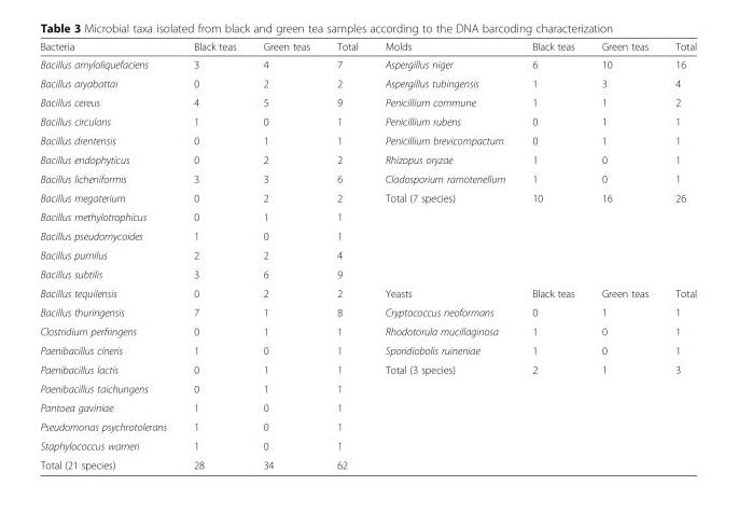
<table><thead><tr><td>Bacteria</td><td>Black teas</td><td>Green teas</td><td>Total</td><td>Molds</td><td>Black teas</td><td>Green teas</td><td>Total</td></tr></thead><tbody><tr><td>Bacillus amyloliquefaciens</td><td>3</td><td>4</td><td>7</td><td>Aspergillus niger</td><td>6</td><td>10</td><td>16</td></tr><tr><td>Bacillus aryabattai</td><td>0</td><td>2</td><td>2</td><td>Aspergillus tubingensis</td><td>1</td><td>3</td><td>4</td></tr><tr><td>Bacillus cereus</td><td>4</td><td>5</td><td>9</td><td>Penicillium commune</td><td>1</td><td>1</td><td>2</td></tr><tr><td>Bacillus circulans</td><td>1</td><td>0</td><td>1</td><td>Penicillium rubens</td><td>0</td><td>1</td><td>1</td></tr><tr><td>Bacillus drentensis</td><td>0</td><td>1</td><td>1</td><td>Penicillium brevicompactum</td><td>0</td><td>1</td><td>1</td></tr><tr><td>Bacillus endophyticus</td><td>0</td><td>2</td><td>2</td><td>Rhizopus oryzae</td><td>1</td><td>0</td><td>1</td></tr><tr><td>Bacillus licheniformis</td><td>3</td><td>3</td><td>6</td><td>Cladosporium ramotenellum</td><td>1</td><td>0</td><td>1</td></tr><tr><td>Bacillus megaterium</td><td>0</td><td>2</td><td>2</td><td>Total (7 species)</td><td>10</td><td>16</td><td>26</td></tr><tr><td>Bacillus methylotrophicus</td><td>0</td><td>1</td><td>1</td><td rowspan="4" colspan="4"></td></tr><tr><td>Bacillus pseudomycoides</td><td>1</td><td>0</td><td>1</td></tr><tr><td>Bacillus pumilus</td><td>2</td><td>2</td><td>4</td></tr><tr><td>Bacillus subtilis</td><td>3</td><td>6</td><td>9</td></tr><tr><td>Bacillus tequilensis</td><td>0</td><td>2</td><td>2</td><td>Yeasts</td><td>Black teas</td><td>Green teas</td><td>Total</td></tr><tr><td>Bacillus thuringensis</td><td>7</td><td>1</td><td>8</td><td>Cryptococcus neoformans</td><td>0</td><td>1</td><td>1</td></tr><tr><td>Clostridium perfringens</td><td>0</td><td>1</td><td>1</td><td>Rhodotorula mucillaginosa</td><td>1</td><td>0</td><td>1</td></tr><tr><td>Paenibacillus cineris</td><td>1</td><td>0</td><td>1</td><td>Sporidiobolis ruineniae</td><td>1</td><td>0</td><td>1</td></tr><tr><td>Paenibacillus lactis</td><td>0</td><td>1</td><td>1</td><td>Total (3 species)</td><td>2</td><td>1</td><td>3</td></tr><tr><td>Paenibacillus taichungens</td><td>0</td><td>1</td><td>1</td><td rowspan="5" colspan="4"></td></tr><tr><td>Pantoea gaviniae</td><td>1</td><td>0</td><td>1</td></tr><tr><td>Pseudomonas psychrotolerans</td><td>1</td><td>0</td><td>1</td></tr><tr><td>Staphylococcus warneri</td><td>1</td><td>0</td><td>1</td></tr><tr><td>Total (21 species)</td><td>28</td><td>34</td><td>62</td></tr></tbody></table>